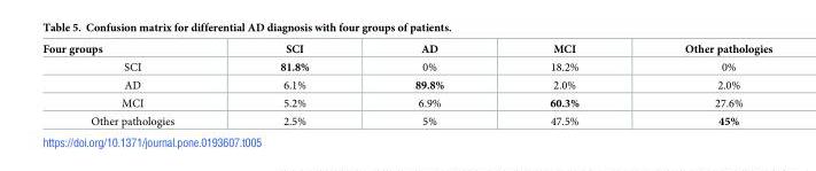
<table><thead><tr><td>Four groups</td><td>SCI</td><td>AD</td><td>MCI</td><td>Other pathologies</td></tr></thead><tbody><tr><td>SCI</td><td>81.8%</td><td>0%</td><td>18.2%</td><td>0%</td></tr><tr><td>AD</td><td>6.1%</td><td>89.8%</td><td>2.0%</td><td>2.0%</td></tr><tr><td>MCI</td><td>5.2%</td><td>6.9%</td><td>60.3%</td><td>27.6%</td></tr><tr><td>Other pathologies</td><td>2.5%</td><td>5%</td><td>47.5%</td><td>45%</td></tr></tbody></table>